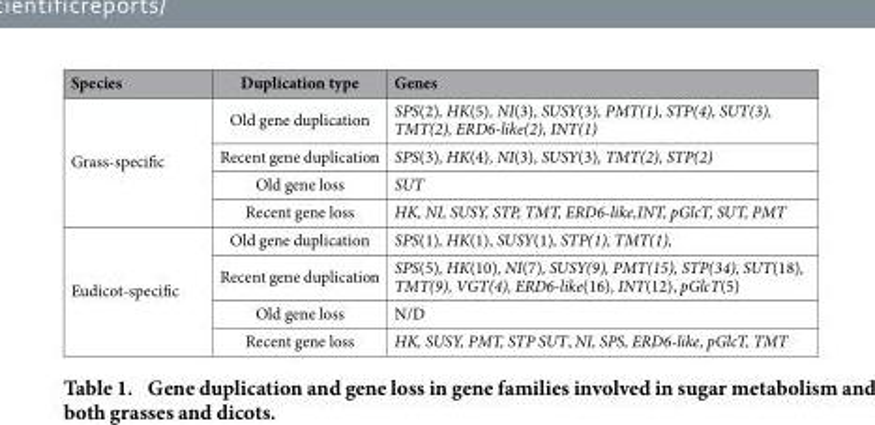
<table><thead><tr><td>Species</td><td>Duplication type</td><td>Genes</td></tr></thead><tbody><tr><td rowspan="4">Grass-specific</td><td>Old gene duplication</td><td>SPS(2), HK(5), NI(3), SUSY(3), PMT(1), STP(4), SUT(3), TMT(2), ERD6-like(2), INT(1)</td></tr><tr><td>Recent gene duplication</td><td>SPS(3), HK(4), NI(3), SUSY(3), TMT(2), STP(2)</td></tr><tr><td>Old gene loss</td><td>SUT</td></tr><tr><td>Recent gene loss</td><td>HK, NI, SUSY, STP, TMT, ERD6-like,INT, pGlcT, SUT, PMT</td></tr><tr><td rowspan="4">Eudicot-specific</td><td>Old gene duplication</td><td>SPS(1), HK(1), SUSY(1), STP(1), TMT(1),</td></tr><tr><td>Recent gene duplication</td><td>SPS(5), HK(10), NI(7), SUSY(9), PMT(15), STP(34), SUT(18), TMT(9), VGT(4), ERD6-like(16), INT(12), pGlcT(5)</td></tr><tr><td>Old gene loss</td><td>N/D</td></tr><tr><td>Recent gene loss</td><td>HK, SUSY, PMT, STP SUT, NI, SPS, ERD6-like, pGlcT, TMT</td></tr></tbody></table>